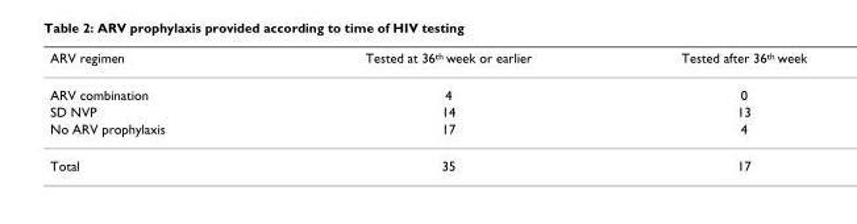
<table><thead><tr><td>ARV regimen</td><td>Tested at 36<sup>th</sup> week or earlier</td><td>Tested after 36<sup>th</sup> week</td></tr></thead><tbody><tr><td>ARV combination</td><td>4</td><td>0</td></tr><tr><td>SD NVP</td><td>14</td><td>13</td></tr><tr><td>No ARV prophylaxis</td><td>17</td><td>4</td></tr><tr><td>Total</td><td>35</td><td>17</td></tr></tbody></table>